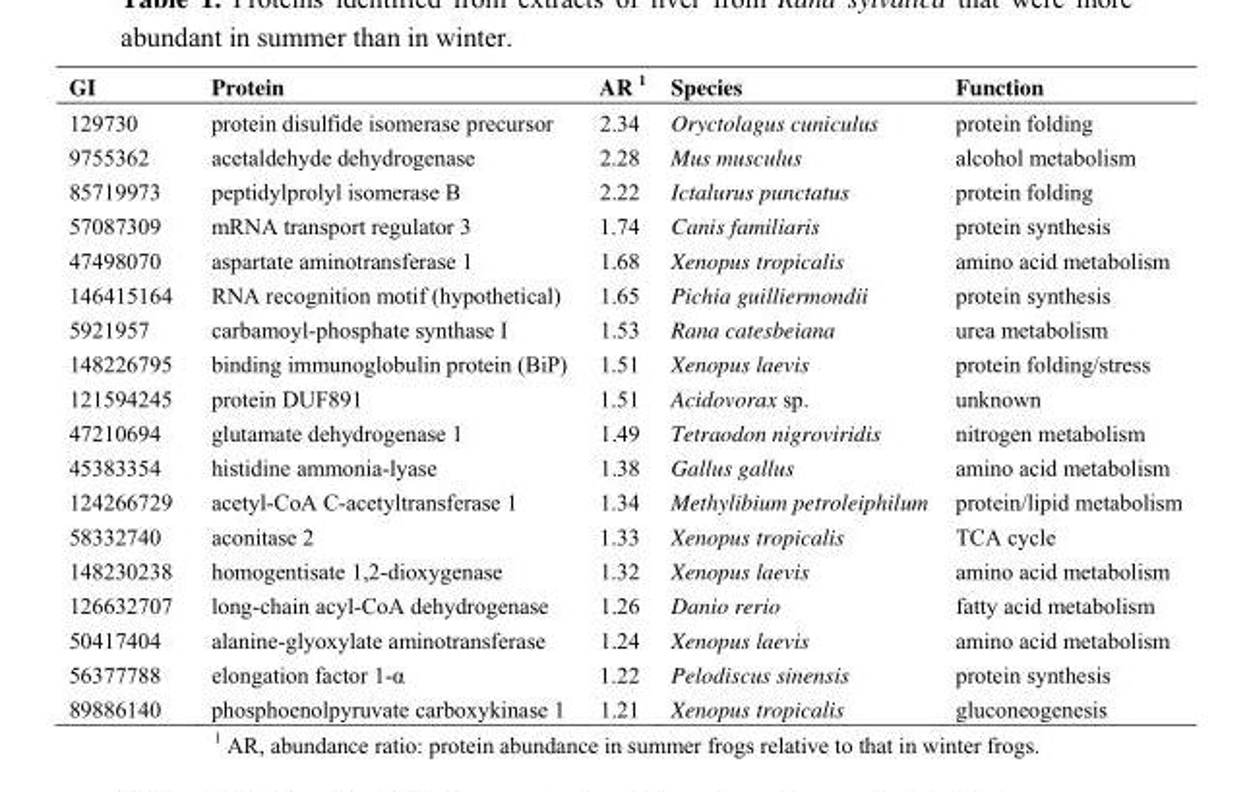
<table><thead><tr><td>GI</td><td>Protein</td><td>AR 1</td><td>Species</td><td>Function</td></tr></thead><tbody><tr><td>129730</td><td>protein disulfide isomerase precursor</td><td>2.34</td><td>Oryctolagus cuniculus</td><td>protein folding</td></tr><tr><td>9755362</td><td>acetaldehyde dehydrogenase</td><td>2.28</td><td>Mus musculus</td><td>alcohol metabolism</td></tr><tr><td>85719973</td><td>peptidylprolyl isomerase B</td><td>2.22</td><td>Ictalurus punctatus</td><td>protein folding</td></tr><tr><td>57087309</td><td>mRNA transport regulator 3</td><td>1.74</td><td>Canis familiaris</td><td>protein synthesis</td></tr><tr><td>47498070</td><td>aspartate aminotransferase 1</td><td>1.68</td><td>Xenopus tropicalis</td><td>amino acid metabolism</td></tr><tr><td>146415164</td><td>RNA recognition motif (hypothetical)</td><td>1.65</td><td>Pichia guilliermondii</td><td>protein synthesis</td></tr><tr><td>5921957</td><td>carbamoyl-phosphate synthase I</td><td>1.53</td><td>Rana catesbeiana</td><td>urea metabolism</td></tr><tr><td>148226795</td><td>binding immunoglobulin protein (BiP)</td><td>1.51</td><td>Xenopus laevis</td><td>protein folding/stress</td></tr><tr><td>121594245</td><td>protein DUF891</td><td>1.51</td><td>Acidovorax sp.</td><td>unknown</td></tr><tr><td>47210694</td><td>glutamate dehydrogenase 1</td><td>1.49</td><td>Tetraodon nigroviridis</td><td>nitrogen metabolism</td></tr><tr><td>45383354</td><td>histidine ammonia-lyase</td><td>1.38</td><td>Gallus gallus</td><td>amino acid metabolism</td></tr><tr><td>124266729</td><td>acetyl-CoA C-acetyltransferase 1</td><td>1.34</td><td>Methylibium petroleiphilum</td><td>protein/lipid metabolism</td></tr><tr><td>58332740</td><td>aconitase 2</td><td>1.33</td><td>Xenopus tropicalis</td><td>TCA cycle</td></tr><tr><td>148230238</td><td>homogentisate 1,2-dioxygenase</td><td>1.32</td><td>Xenopus laevis</td><td>amino acid metabolism</td></tr><tr><td>126632707</td><td>long-chain acyl-CoA dehydrogenase</td><td>1.26</td><td>Danio rerio</td><td>fatty acid metabolism</td></tr><tr><td>50417404</td><td>alanine-glyoxylate aminotransferase</td><td>1.24</td><td>Xenopus laevis</td><td>amino acid metabolism</td></tr><tr><td>56377788</td><td>elongation factor 1-α</td><td>1.22</td><td>Pelodiscus sinensis</td><td>protein synthesis</td></tr><tr><td>89886140</td><td>phosphoenolpyruvate carboxykinase 1</td><td>1.21</td><td>Xenopus tropicalis</td><td>gluconeogenesis</td></tr></tbody></table>